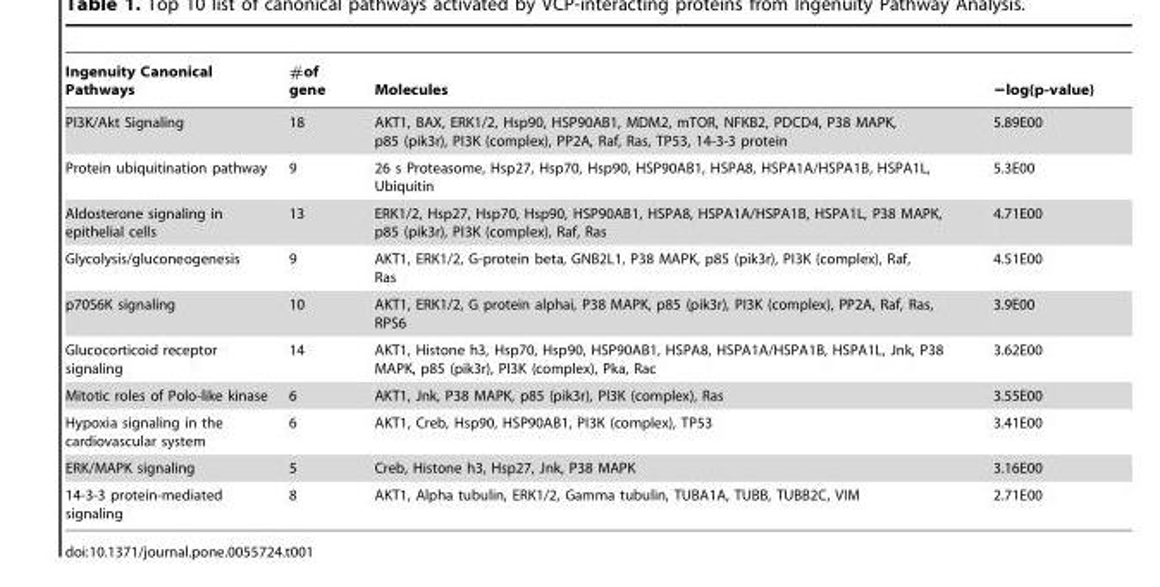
<table><thead><tr><td>Ingenuity Canonical Pathways</td><td>#of gene</td><td>Molecules</td><td>−log(p-value)</td></tr></thead><tbody><tr><td>PI3K/Akt Signaling</td><td>18</td><td>AKT1, BAX, ERK1/2, Hsp90, HSP90AB1, MDM2, mTOR, NFKB2, PDCD4, P38 MAPK, p85 (pik3r), PI3K (complex), PP2A, Raf, Ras, TP53, 14-3-3 protein</td><td>5.89E00</td></tr><tr><td>Protein ubiquitination pathway</td><td>9</td><td>26 s Proteasome, Hsp27, Hsp70, Hsp90, HSP90AB1, HSPA8, HSPA1A/HSPA1B, HSPA1L, Ubiquitin</td><td>5.3E00</td></tr><tr><td>Aldosterone signaling in epithelial cells</td><td>13</td><td>ERK1/2, Hsp27, Hsp70, Hsp90, HSP90AB1, HSPA8, HSPA1A/HSPA1B, HSPA1L, P38 MAPK, p85 (pik3r), PI3K (complex), Raf, Ras</td><td>4.71E00</td></tr><tr><td>Glycolysis/gluconeogenesis</td><td>9</td><td>AKT1, ERK1/2, G-protein beta, GNB2L1, P38 MAPK, p85 (pik3r), PI3K (complex), Raf, Ras</td><td>4.51E00</td></tr><tr><td>p70S6K signaling</td><td>10</td><td>AKT1, ERK1/2, G protein alphai, P38 MAPK, p85 (pik3r), PI3K (complex), PP2A, Raf, Ras, RPS6</td><td>3.9E00</td></tr><tr><td>Glucocorticoid receptor signaling</td><td>14</td><td>AKT1, Histone h3, Hsp70, Hsp90, HSP90AB1, HSPA8, HSPA1A/HSPA1B, HSPA1L, Jnk, P38 MAPK, p85 (pik3r), PI3K (complex), Pka, Rac</td><td>3.62E00</td></tr><tr><td>Mitotic roles of Polo-like kinase</td><td>6</td><td>AKT1, Jnk, P38 MAPK, p85 (pik3r), PI3K (complex), Ras</td><td>3.55E00</td></tr><tr><td>Hypoxia signaling in the cardiovascular system</td><td>6</td><td>AKT1, Creb, Hsp90, HSP90AB1, PI3K (complex), TP53</td><td>3.41E00</td></tr><tr><td>ERK/MAPK signaling</td><td>5</td><td>Creb, Histone h3, Hsp27, Jnk, P38 MAPK</td><td>3.16E00</td></tr><tr><td>14-3-3 protein-mediated signaling</td><td>8</td><td>AKT1, Alpha tubulin, ERK1/2, Gamma tubulin, TUBA1A, TUBB, TUBB2C, VIM</td><td>2.71E00</td></tr></tbody></table>